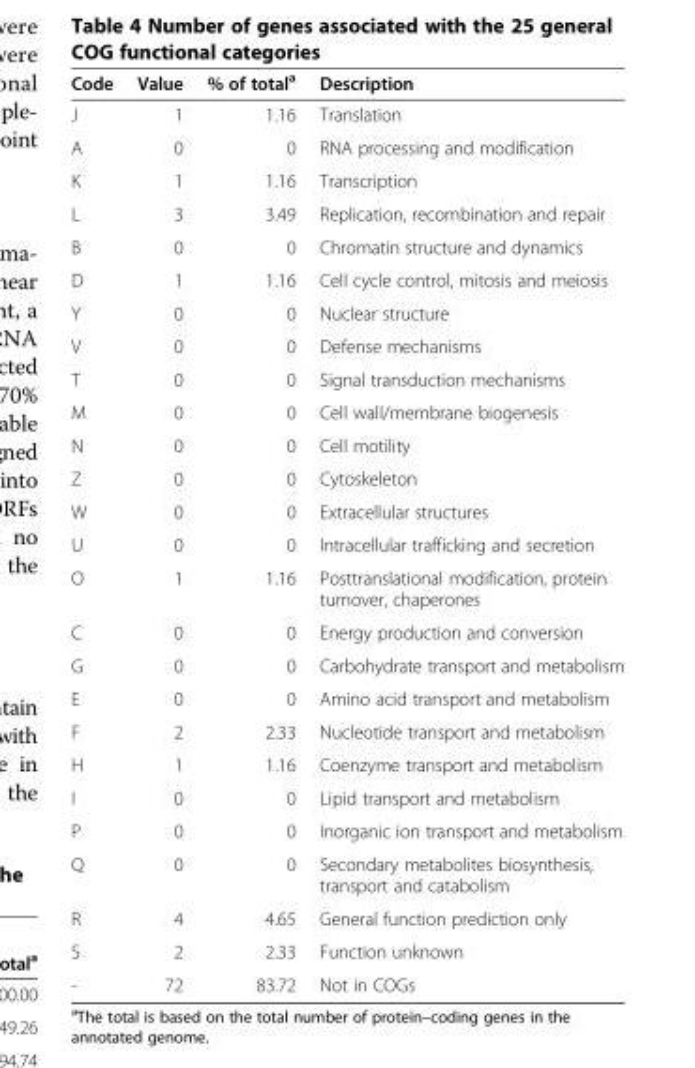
<table><thead><tr><td>Code</td><td>Value</td><td>% of total<sup>a</sup></td><td>Description</td></tr></thead><tbody><tr><td>J</td><td>1</td><td>1.16</td><td>Translation</td></tr><tr><td>A</td><td>0</td><td>0</td><td>RNA processing and modification</td></tr><tr><td>K</td><td>1</td><td>1.16</td><td>Transcription</td></tr><tr><td>L</td><td>3</td><td>3.49</td><td>Replication, recombination and repair</td></tr><tr><td>B</td><td>0</td><td>0</td><td>Chromatin structure and dynamics</td></tr><tr><td>D</td><td>1</td><td>1.16</td><td>Cell cycle control, mitosis and meiosis</td></tr><tr><td>Y</td><td>0</td><td>0</td><td>Nuclear structure</td></tr><tr><td>V</td><td>0</td><td>0</td><td>Defense mechanisms</td></tr><tr><td>T</td><td>0</td><td>0</td><td>Signal transduction mechanisms</td></tr><tr><td>M</td><td>0</td><td>0</td><td>Cell wall/membrane biogenesis</td></tr><tr><td>N</td><td>0</td><td>0</td><td>Cell motility</td></tr><tr><td>Z</td><td>0</td><td>0</td><td>Cytoskeleton</td></tr><tr><td>W</td><td>0</td><td>0</td><td>Extracellular structures</td></tr><tr><td>U</td><td>0</td><td>0</td><td>Intracellular trafficking and secretion</td></tr><tr><td>O</td><td>1</td><td>1.16</td><td>Posttranslational modification, protein turnover, chaperones</td></tr><tr><td>C</td><td>0</td><td>0</td><td>Energy production and conversion</td></tr><tr><td>G</td><td>0</td><td>0</td><td>Carbohydrate transport and metabolism</td></tr><tr><td>E</td><td>0</td><td>0</td><td>Amino acid transport and metabolism</td></tr><tr><td>F</td><td>2</td><td>2.33</td><td>Nucleotide transport and metabolism</td></tr><tr><td>H</td><td>1</td><td>1.16</td><td>Coenzyme transport and metabolism</td></tr><tr><td>I</td><td>0</td><td>0</td><td>Lipid transport and metabolism</td></tr><tr><td>P</td><td>0</td><td>0</td><td>Inorganic ion transport and metabolism</td></tr><tr><td>Q</td><td>0</td><td>0</td><td>Secondary metabolites biosynthesis, transport and catabolism</td></tr><tr><td>R</td><td>4</td><td>4.65</td><td>General function prediction only</td></tr><tr><td>S</td><td>2</td><td>2.33</td><td>Function unknown</td></tr><tr><td>-</td><td>72</td><td>83.72</td><td>Not in COGs</td></tr></tbody></table>